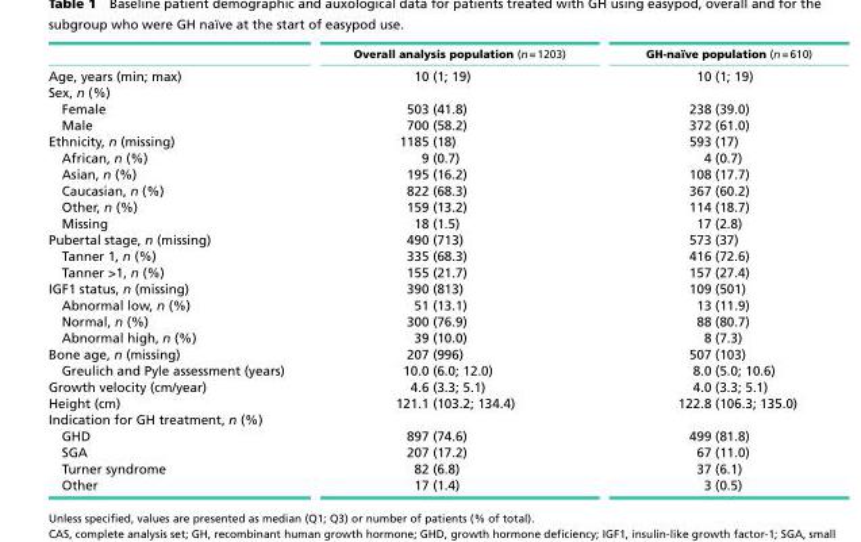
<table><thead><tr><td></td><td>Overall analysis population (n = 1203)</td><td>GH-naïve population (n = 610)</td></tr></thead><tbody><tr><td>Age, years (min; max)</td><td>10 (1; 19)</td><td>10 (1; 19)</td></tr><tr><td colspan="3">Sex, n (%)</td></tr><tr><td>Female</td><td>503 (41.8)</td><td>238 (39.0)</td></tr><tr><td>Male</td><td>700 (58.2)</td><td>372 (61.0)</td></tr><tr><td>Ethnicity, n (missing)</td><td>1185 (18)</td><td>593 (17)</td></tr><tr><td>African, n (%)</td><td>9 (0.7)</td><td>4 (0.7)</td></tr><tr><td>Asian, n (%)</td><td>195 (16.2)</td><td>108 (17.7)</td></tr><tr><td>Caucasian, n (%)</td><td>822 (68.3)</td><td>367 (60.2)</td></tr><tr><td>Other, n (%)</td><td>159 (13.2)</td><td>114 (18.7)</td></tr><tr><td>Missing</td><td>18 (1.5)</td><td>17 (2.8)</td></tr><tr><td>Pubertal stage, n (missing)</td><td>490 (713)</td><td>573 (37)</td></tr><tr><td>Tanner 1, n (%)</td><td>335 (68.3)</td><td>416 (72.6)</td></tr><tr><td>Tanner &gt;1, n (%)</td><td>155 (21.7)</td><td>157 (27.4)</td></tr><tr><td>IGF1 status, n (missing)</td><td>390 (813)</td><td>109 (501)</td></tr><tr><td>Abnormal low, n (%)</td><td>51 (13.1)</td><td>13 (11.9)</td></tr><tr><td>Normal, n (%)</td><td>300 (76.9)</td><td>88 (80.7)</td></tr><tr><td>Abnormal high, n (%)</td><td>39 (10.0)</td><td>8 (7.3)</td></tr><tr><td>Bone age, n (missing)</td><td>207 (996)</td><td>507 (103)</td></tr><tr><td>Greulich and Pyle assessment (years)</td><td>10.0 (6.0; 12.0)</td><td>8.0 (5.0; 10.6)</td></tr><tr><td>Growth velocity (cm/year)</td><td>4.6 (3.3; 5.1)</td><td>4.0 (3.3; 5.1)</td></tr><tr><td>Height (cm)</td><td>121.1 (103.2; 134.4)</td><td>122.8 (106.3; 135.0)</td></tr><tr><td colspan="3">Indication for GH treatment, n (%)</td></tr><tr><td>GHD</td><td>897 (74.6)</td><td>499 (81.8)</td></tr><tr><td>SGA</td><td>207 (17.2)</td><td>67 (11.0)</td></tr><tr><td>Turner syndrome</td><td>82 (6.8)</td><td>37 (6.1)</td></tr><tr><td>Other</td><td>17 (1.4)</td><td>3 (0.5)</td></tr></tbody></table>